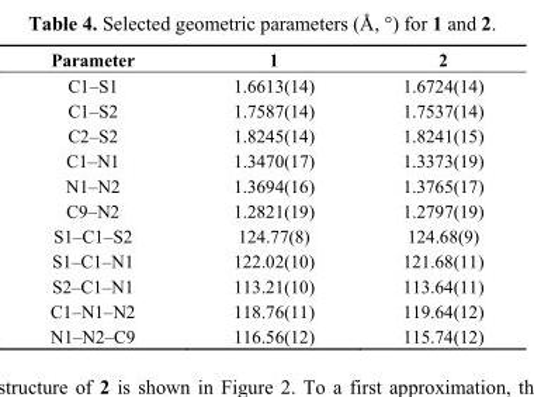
<table><thead><tr><td>Parameter</td><td>1</td><td>2</td></tr></thead><tbody><tr><td>C1‒S1</td><td>1.6613(14)</td><td>1.6724(14)</td></tr><tr><td>C1‒S2</td><td>1.7587(14)</td><td>1.7537(14)</td></tr><tr><td>C2‒S2</td><td>1.8245(14)</td><td>1.8241(15)</td></tr><tr><td>C1‒N1</td><td>1.3470(17)</td><td>1.3373(19)</td></tr><tr><td>N1‒N2</td><td>1.3694(16)</td><td>1.3765(17)</td></tr><tr><td>C9‒N2</td><td>1.2821(19)</td><td>1.2797(19)</td></tr><tr><td>S1‒C1‒S2</td><td>124.77(8)</td><td>124.68(9)</td></tr><tr><td>S1‒C1‒N1</td><td>122.02(10)</td><td>121.68(11)</td></tr><tr><td>S2‒C1‒N1</td><td>113.21(10)</td><td>113.64(11)</td></tr><tr><td>C1‒N1‒N2</td><td>118.76(11)</td><td>119.64(12)</td></tr><tr><td>N1‒N2‒C9</td><td>116.56(12)</td><td>115.74(12)</td></tr></tbody></table>